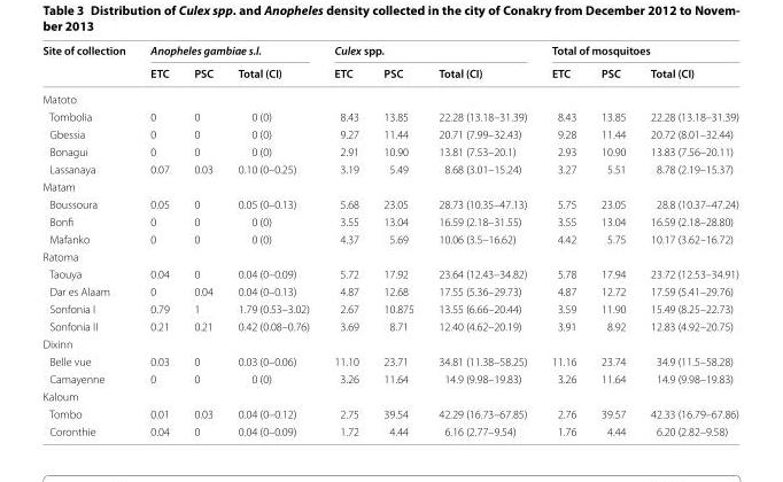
<table><thead><tr><td rowspan="2">Site of collection</td><td colspan="3">Anopheles gambiae s.l.</td><td colspan="3">Culex spp.</td><td colspan="3">Total of mosquitoes</td></tr><tr><td>ETC</td><td>PSC</td><td>Total (CI)</td><td>ETC</td><td>PSC</td><td>Total (CI)</td><td>ETC</td><td>PSC</td><td>Total (CI)</td></tr></thead><tbody><tr><td colspan="10">Matoto</td></tr><tr><td>Tombolia</td><td>0</td><td>0</td><td>0 (0)</td><td>8.43</td><td>13.85</td><td>22.28 (13.18–31.39)</td><td>8.43</td><td>13.85</td><td>22.28 (13.18–31.39)</td></tr><tr><td>Gbessia</td><td>0</td><td>0</td><td>0 (0)</td><td>9.27</td><td>11.44</td><td>20.71 (7.99–32.43)</td><td>9.28</td><td>11.44</td><td>20.72 (8.01–32.44)</td></tr><tr><td>Bonagui</td><td>0</td><td>0</td><td>0 (0)</td><td>2.91</td><td>10.90</td><td>13.81 (7.53–20.1)</td><td>2.93</td><td>10.90</td><td>13.83 (7.56–20.11)</td></tr><tr><td>Lassanaya</td><td>0.07</td><td>0.03</td><td>0.10 (0–0.25)</td><td>3.19</td><td>5.49</td><td>8.68 (3.01–15.24)</td><td>3.27</td><td>5.51</td><td>8.78 (2.19–15.37)</td></tr><tr><td colspan="10">Matam</td></tr><tr><td>Boussoura</td><td>0.05</td><td>0</td><td>0.05 (0–0.13)</td><td>5.68</td><td>23.05</td><td>28.73 (10.35–47.13)</td><td>5.75</td><td>23.05</td><td>28.8 (10.37–47.24)</td></tr><tr><td>Bonfi</td><td>0</td><td>0</td><td>0 (0)</td><td>3.55</td><td>13.04</td><td>16.59 (2.18–31.55)</td><td>3.55</td><td>13.04</td><td>16.59 (2.18–28.80)</td></tr><tr><td>Mafanko</td><td>0</td><td>0</td><td>0 (0)</td><td>4.37</td><td>5.69</td><td>10.06 (3.5–16.62)</td><td>4.42</td><td>5.75</td><td>10.17 (3.62–16.72)</td></tr><tr><td colspan="10">Ratoma</td></tr><tr><td>Taouya</td><td>0.04</td><td>0</td><td>0.04 (0–0.09)</td><td>5.72</td><td>17.92</td><td>23.64 (12.43–34.82)</td><td>5.78</td><td>17.94</td><td>23.72 (12.53–34.91)</td></tr><tr><td>Dar es Alaam</td><td>0</td><td>0.04</td><td>0.04 (0–0.13)</td><td>4.87</td><td>12.68</td><td>17.55 (5.36–29.73)</td><td>4.87</td><td>12.72</td><td>17.59 (5.41–29.76)</td></tr><tr><td>Sonfonia I</td><td>0.79</td><td>1</td><td>1.79 (0.53–3.02)</td><td>2.67</td><td>10.875</td><td>13.55 (6.66–20.44)</td><td>3.59</td><td>11.90</td><td>15.49 (8.25–22.73)</td></tr><tr><td>Sonfonia II</td><td>0.21</td><td>0.21</td><td>0.42 (0.08–0.76)</td><td>3.69</td><td>8.71</td><td>12.40 (4.62–20.19)</td><td>3.91</td><td>8.92</td><td>12.83 (4.92–20.75)</td></tr><tr><td colspan="10">Dixinn</td></tr><tr><td>Belle vue</td><td>0.03</td><td>0</td><td>0.03 (0–0.06)</td><td>11.10</td><td>23.71</td><td>34.81 (11.38–58.25)</td><td>11.16</td><td>23.74</td><td>34.9 (11.5–58.28)</td></tr><tr><td>Camayenne</td><td>0</td><td>0</td><td>0 (0)</td><td>3.26</td><td>11.64</td><td>14.9 (9.98–19.83)</td><td>3.26</td><td>11.64</td><td>14.9 (9.98–19.83)</td></tr><tr><td colspan="10">Kaloum</td></tr><tr><td>Tombo</td><td>0.01</td><td>0.03</td><td>0.04 (0–0.12)</td><td>2.75</td><td>39.54</td><td>42.29 (16.73–67.85)</td><td>2.76</td><td>39.57</td><td>42.33 (16.79–67.86)</td></tr><tr><td>Coronthie</td><td>0.04</td><td>0</td><td>0.04 (0–0.09)</td><td>1.72</td><td>4.44</td><td>6.16 (2.77–9.54)</td><td>1.76</td><td>4.44</td><td>6.20 (2.82–9.58)</td></tr></tbody></table>